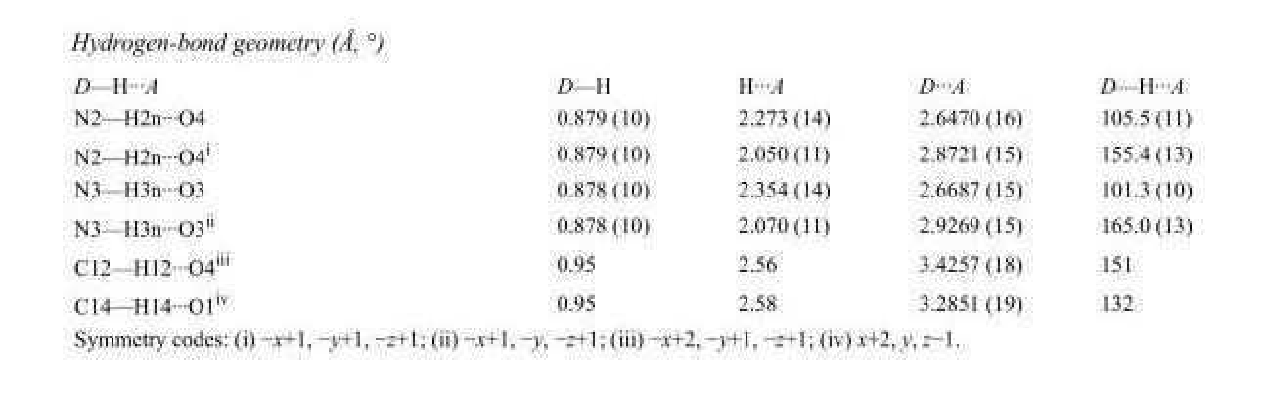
<table><tbody><tr><td>D—H···A</td><td>D—H</td><td>H···A</td><td>D···A</td><td>D—H···A</td></tr><tr><td>N2—H2n···O4</td><td>0.879 (10)</td><td>2.273 (14)</td><td>2.6470 (16)</td><td>105.5 (11)</td></tr><tr><td>N2—H2n···O4<sup>i</sup></td><td>0.879 (10)</td><td>2.050 (11)</td><td>2.8721 (15)</td><td>155.4 (13)</td></tr><tr><td>N3—H3n···O3</td><td>0.878 (10)</td><td>2.354 (14)</td><td>2.6687 (15)</td><td>101.3 (10)</td></tr><tr><td>N3—H3n···O3<sup>ii</sup></td><td>0.878 (10)</td><td>2.070 (11)</td><td>2.9269 (15)</td><td>165.0 (13)</td></tr><tr><td>C12—H12···O4<sup>iii</sup></td><td>0.95</td><td>2.56</td><td>3.4257 (18)</td><td>151</td></tr><tr><td>C14—H14···O1<sup>iv</sup></td><td>0.95</td><td>2.58</td><td>3.2851 (19)</td><td>132</td></tr></tbody></table>